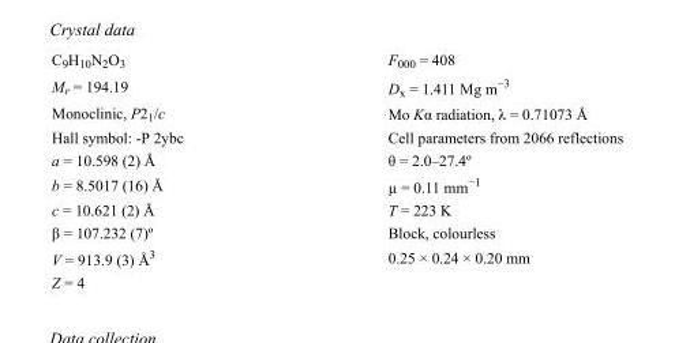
<table><tbody><tr><td>C<sub>9</sub>H<sub>10</sub>N<sub>2</sub>O<sub>3</sub></td><td>F000 = 408</td></tr><tr><td>M<sub>r</sub> = 194.19</td><td>D<sub>x</sub> = 1.411 Mg m<sup>−3</sup></td></tr><tr><td>Monoclinic, P2<sub>1</sub>/c</td><td>Mo Kα radiation, λ = 0.71073 Å</td></tr><tr><td>Hall symbol: -P 2ybc</td><td>Cell parameters from 2066 reflections</td></tr><tr><td>a = 10.598 (2) Å</td><td>θ = 2.0–27.4º</td></tr><tr><td>b = 8.5017 (16) Å</td><td>µ = 0.11 mm<sup>−1</sup></td></tr><tr><td>c = 10.621 (2) Å</td><td>T = 223 K</td></tr><tr><td>β = 107.232 (7)º</td><td>Block, colourless</td></tr><tr><td>V = 913.9 (3) Å<sup>3</sup></td><td>0.25 × 0.24 × 0.20 mm</td></tr><tr><td>Z = 4</td><td></td></tr></tbody></table>